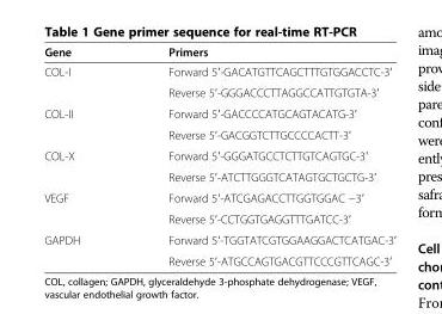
<table><thead><tr><td>Gene</td><td>Primers</td></tr></thead><tbody><tr><td rowspan="2">COL-I</td><td>Forward 5′-GACATGTTCAGCTTTGTGGACCTC-3′</td></tr><tr><td>Reverse 5′-GGGACCCTTAGGCCATTGTGTA-3′</td></tr><tr><td rowspan="2">COL-II</td><td>Forward 5′-GACCCCATGCAGTACATG-3′</td></tr><tr><td>Reverse 5′-GACGGTCTTGCCCCACTT-3′</td></tr><tr><td rowspan="2">COL-X</td><td>Forward 5′-GGGATGCCTCTTGTCAGTGC-3′</td></tr><tr><td>Reverse 5′-ATCTTGGGTCATAGTGCTGCTG-3′</td></tr><tr><td rowspan="2">VEGF</td><td>Forward 5′-ATCGAGACCTTGGTGGAC −3′</td></tr><tr><td>Reverse 5′-CCTGGTGAGGTTTGATCC-3′</td></tr><tr><td rowspan="2">GAPDH</td><td>Forward 5′-TGGTATCGTGGAAGGACTCATGAC-3′</td></tr><tr><td>Reverse 5′-ATGCCAGTGACGTTCCCGTTCAGC-3′</td></tr></tbody></table>